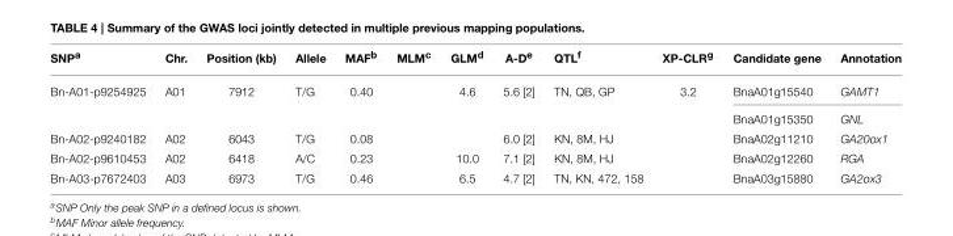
<table><thead><tr><td>SNP<sup>a</sup></td><td>Chr.</td><td>Position (kb)</td><td>Allele</td><td>MAF<sup>b</sup></td><td>MLM<sup>c</sup></td><td>GLM<sup>d</sup></td><td>A-D<sup>e</sup></td><td>QTL<sup>f</sup></td><td>XP-CLR<sup>g</sup></td><td>Candidate gene</td><td>Annotation</td></tr></thead><tbody><tr><td>Bn-A01-p9254925</td><td>A01</td><td>7912</td><td>T/G</td><td>0.40</td><td></td><td>4.6</td><td>5.6 [2]</td><td>TN, QB, GP</td><td>3.2</td><td>BnaA01g15540</td><td>GAMT1</td></tr><tr><td colspan="10"></td><td>BnaA01g15350</td><td>GNL</td></tr><tr><td>Bn-A02-p9240182</td><td>A02</td><td>6043</td><td>T/G</td><td>0.08</td><td></td><td></td><td>6.0 [2]</td><td>KN, 8M, HJ</td><td></td><td>BnaA02g11210</td><td>GA20ox1</td></tr><tr><td>Bn-A02-p9610453</td><td>A02</td><td>6418</td><td>A/C</td><td>0.23</td><td></td><td>10.0</td><td>7.1 [2]</td><td>KN, 8M, HJ</td><td></td><td>BnaA02g12260</td><td>RGA</td></tr><tr><td>Bn-A03-p7672403</td><td>A03</td><td>6973</td><td>T/G</td><td>0.46</td><td></td><td>6.5</td><td>4.7 [2]</td><td>TN, KN, 472, 158</td><td></td><td>BnaA03g15880</td><td>GA2ox3</td></tr></tbody></table>